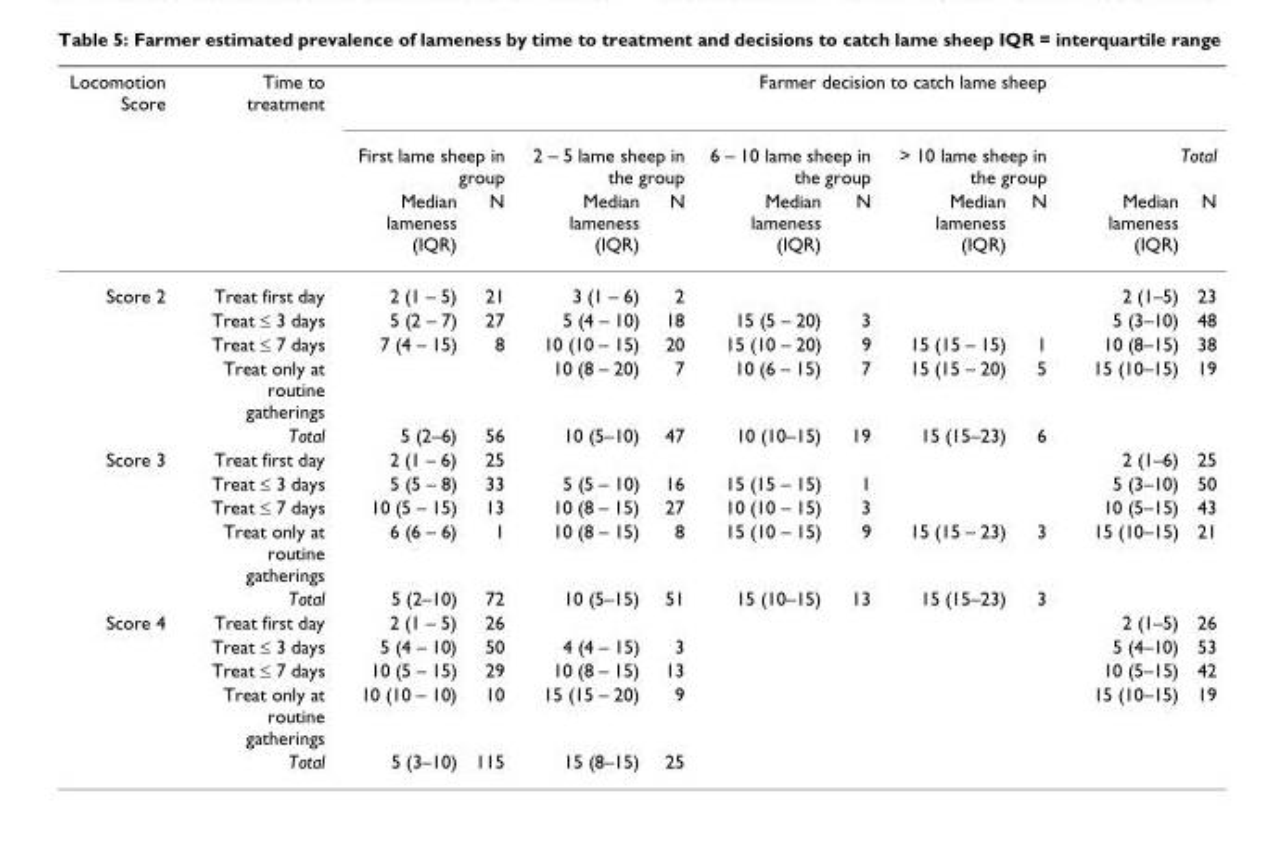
<table><thead><tr><td rowspan="3">Locomotion Score</td><td rowspan="3">Time to treatment</td><td colspan="8">Farmer decision to catch lame sheep</td><td></td><td></td></tr><tr><td colspan="2">First lame sheep in group</td><td colspan="2">2 – 5 lame sheep in the group</td><td colspan="2">6 – 10 lame sheep in the group</td><td colspan="2">&gt; 10 lame sheep in the group</td><td colspan="2">Total</td></tr><tr><td>Median lameness (IQR)</td><td>N</td><td>Median lameness (IQR)</td><td>N</td><td>Median lameness (IQR)</td><td>N</td><td>Median lameness (IQR)</td><td>N</td><td>Median lameness (IQR)</td><td>N</td></tr></thead><tbody><tr><td rowspan="5">Score 2</td><td>Treat first day</td><td>2 (1 – 5)</td><td>21</td><td>3 (1 – 6)</td><td>2</td><td></td><td></td><td></td><td></td><td>2 (1–5)</td><td>23</td></tr><tr><td>Treat ≤ 3 days</td><td>5 (2 – 7)</td><td>27</td><td>5 (4 – 10)</td><td>18</td><td>15 (5 – 20)</td><td>3</td><td></td><td></td><td>5 (3–10)</td><td>48</td></tr><tr><td>Treat ≤ 7 days</td><td>7 (4 – 15)</td><td>8</td><td>10 (10 – 15)</td><td>20</td><td>15 (10 – 20)</td><td>9</td><td>15 (15 – 15)</td><td>1</td><td>10 (8–15)</td><td>38</td></tr><tr><td>Treat only at routine gatherings</td><td></td><td></td><td>10 (8 – 20)</td><td>7</td><td>10 (6 – 15)</td><td>7</td><td>15 (15 – 20)</td><td>5</td><td>15 (10–15)</td><td>19</td></tr><tr><td>Total</td><td>5 (2–6)</td><td>56</td><td>10 (5–10)</td><td>47</td><td>10 (10–15)</td><td>19</td><td>15 (15–23)</td><td>6</td><td></td><td></td></tr><tr><td rowspan="5">Score 3</td><td>Treat first day</td><td>2 (1 – 6)</td><td>25</td><td></td><td></td><td></td><td></td><td></td><td></td><td>2 (1–6)</td><td>25</td></tr><tr><td>Treat ≤ 3 days</td><td>5 (5 – 8)</td><td>33</td><td>5 (5 – 10)</td><td>16</td><td>15 (15 – 15)</td><td>1</td><td></td><td></td><td>5 (3–10)</td><td>50</td></tr><tr><td>Treat ≤ 7 days</td><td>10 (5 – 15)</td><td>13</td><td>10 (8 – 15)</td><td>27</td><td>10 (10 – 15)</td><td>3</td><td></td><td></td><td>10 (5–15)</td><td>43</td></tr><tr><td>Treat only at routine gatherings</td><td>6 (6 – 6)</td><td>1</td><td>10 (8 – 15)</td><td>8</td><td>15 (10 – 15)</td><td>9</td><td>15 (15 – 23)</td><td>3</td><td>15 (10–15)</td><td>21</td></tr><tr><td>Total</td><td>5 (2–10)</td><td>72</td><td>10 (5–15)</td><td>51</td><td>15 (10–15)</td><td>13</td><td>15 (15–23)</td><td>3</td><td></td><td></td></tr><tr><td rowspan="5">Score 4</td><td>Treat first day</td><td>2 (1 – 5)</td><td>26</td><td></td><td></td><td></td><td></td><td></td><td></td><td>2 (1–5)</td><td>26</td></tr><tr><td>Treat ≤ 3 days</td><td>5 (4 – 10)</td><td>50</td><td>4 (4 – 15)</td><td>3</td><td></td><td></td><td></td><td></td><td>5 (4–10)</td><td>53</td></tr><tr><td>Treat ≤ 7 days</td><td>10 (5 – 15)</td><td>29</td><td>10 (8 – 15)</td><td>13</td><td></td><td></td><td></td><td></td><td>10 (5–15)</td><td>42</td></tr><tr><td>Treat only at routine gatherings</td><td>10 (10 – 10)</td><td>10</td><td>15 (15 – 20)</td><td>9</td><td></td><td></td><td></td><td></td><td>15 (10–15)</td><td>19</td></tr><tr><td>Total</td><td>5 (3–10)</td><td>115</td><td>15 (8–15)</td><td>25</td><td></td><td></td><td></td><td></td><td></td><td></td></tr></tbody></table>